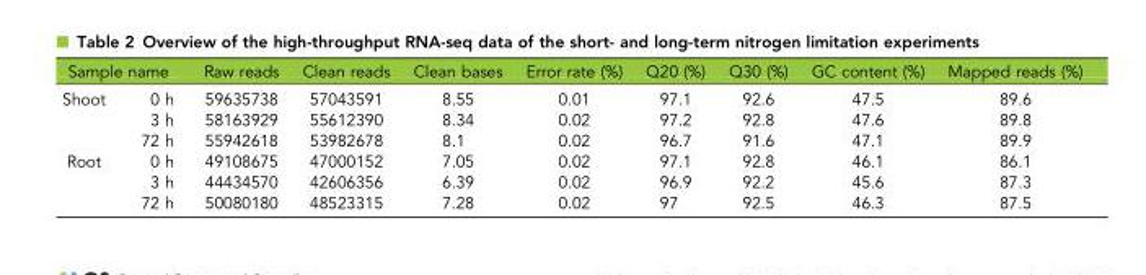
<table><thead><tr><td colspan="2">Sample name</td><td rowspan="2">Raw reads 59635738</td><td rowspan="2">Clean reads 57043591</td><td rowspan="2">Clean bases 8.55</td><td rowspan="2">Error rate (%) 0.01</td><td rowspan="2">Q20 (%) 97.1</td><td rowspan="2">Q30 (%) 92.6</td><td rowspan="2">GC content (%) 47.5</td><td rowspan="2">Mapped reads (%) 89.6</td></tr><tr><td>Shoot</td><td>0 h</td></tr></thead><tbody><tr><td></td><td>3 h</td><td>58163929</td><td>55612390</td><td>8.34</td><td>0.02</td><td>97.2</td><td>92.8</td><td>47.6</td><td>89.8</td></tr><tr><td></td><td>72 h</td><td>55942618</td><td>53982678</td><td>8.1</td><td>0.02</td><td>96.7</td><td>91.6</td><td>47.1</td><td>89.9</td></tr><tr><td rowspan="3">Root</td><td>0 h</td><td>49108675</td><td>47000152</td><td>7.05</td><td>0.02</td><td>97.1</td><td>92.8</td><td>46.1</td><td>86.1</td></tr><tr><td>3 h</td><td>44434570</td><td>42606356</td><td>6.39</td><td>0.02</td><td>96.9</td><td>92.2</td><td>45.6</td><td>87.3</td></tr><tr><td>72 h</td><td>50080180</td><td>48523315</td><td>7.28</td><td>0.02</td><td>97</td><td>92.5</td><td>46.3</td><td>87.5</td></tr></tbody></table>